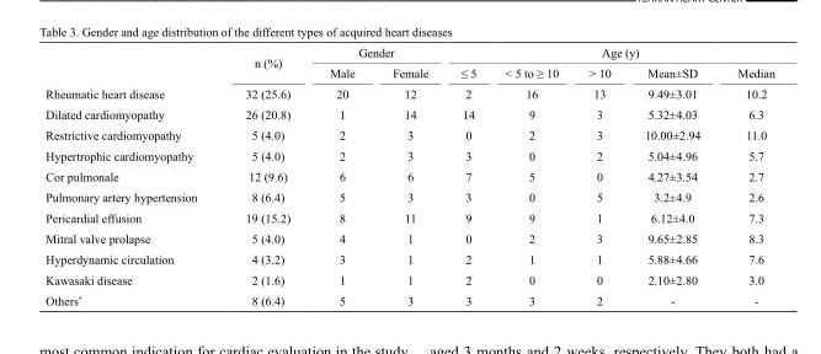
<table><thead><tr><td rowspan="2"></td><td rowspan="2">n (%)</td><td colspan="2">Gender</td><td colspan="5">Age (y)</td></tr><tr><td>Male</td><td>Female</td><td>≤ 5</td><td>&lt; 5 to ≥ 10</td><td>&gt; 10</td><td>Mean±SD</td><td>Median</td></tr></thead><tbody><tr><td>Rheumatic heart disease</td><td>32 (25.6)</td><td>20</td><td>12</td><td>2</td><td>16</td><td>13</td><td>9.49±3.01</td><td>10.2</td></tr><tr><td>Dilated cardiomyopathy</td><td>26 (20.8)</td><td>1</td><td>14</td><td>14</td><td>9</td><td>3</td><td>5.32±4.03</td><td>6.3</td></tr><tr><td>Restrictive cardiomyopathy</td><td>5 (4.0)</td><td>2</td><td>3</td><td>0</td><td>2</td><td>3</td><td>10.00±2.94</td><td>11.0</td></tr><tr><td>Hypertrophic cardiomyopathy</td><td>5 (4.0)</td><td>2</td><td>3</td><td>3</td><td>0</td><td>2</td><td>5.04±4.96</td><td>5.7</td></tr><tr><td>Cor pulmonale</td><td>12 (9.6)</td><td>6</td><td>6</td><td>7</td><td>5</td><td>0</td><td>4.27±3.54</td><td>2.7</td></tr><tr><td>Pulmonary artery hypertension</td><td>8 (6.4)</td><td>5</td><td>3</td><td>3</td><td>0</td><td>5</td><td>3.2±4.9</td><td>2.6</td></tr><tr><td>Pericardial effusion</td><td>19 (15.2)</td><td>8</td><td>11</td><td>9</td><td>9</td><td>1</td><td>6.12±4.0</td><td>7.3</td></tr><tr><td>Mitral valve prolapse</td><td>5 (4.0)</td><td>4</td><td>1</td><td>0</td><td>2</td><td>3</td><td>9.65±2.85</td><td>8.3</td></tr><tr><td>Hyperdynamic circulation</td><td>4 (3.2)</td><td>3</td><td>1</td><td>2</td><td>1</td><td>1</td><td>5.88±4.66</td><td>7.6</td></tr><tr><td>Kawasaki disease</td><td>2 (1.6)</td><td>1</td><td>1</td><td>2</td><td>0</td><td>0</td><td>2.10±2.80</td><td>3.0</td></tr><tr><td>Others*</td><td>8 (6.4)</td><td>5</td><td>3</td><td>3</td><td>3</td><td>2</td><td>-</td><td>-</td></tr></tbody></table>